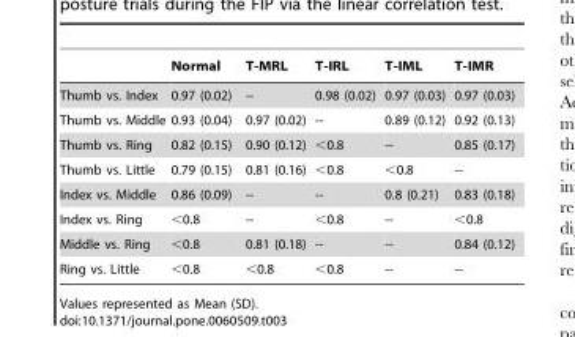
<table><thead><tr><td></td><td>Normal</td><td>T-MRL</td><td>T-IRL</td><td>T-IML</td><td>T-IMR</td></tr></thead><tbody><tr><td>Thumb vs. Index</td><td>0.97 (0.02)</td><td>--</td><td>0.98 (0.02)</td><td>0.97 (0.03)</td><td>0.97 (0.03)</td></tr><tr><td>Thumb vs. Middle</td><td>0.93 (0.04)</td><td>0.97 (0.02)</td><td>--</td><td>0.89 (0.12)</td><td>0.92 (0.13)</td></tr><tr><td>Thumb vs. Ring</td><td>0.82 (0.15)</td><td>0.90 (0.12)</td><td>&lt;0.8</td><td>--</td><td>0.85 (0.17)</td></tr><tr><td>Thumb vs. Little</td><td>0.79 (0.15)</td><td>0.81 (0.16)</td><td>&lt;0.8</td><td>&lt;0.8</td><td>--</td></tr><tr><td>Index vs. Middle</td><td>0.86 (0.09)</td><td>--</td><td>--</td><td>0.8 (0.21)</td><td>0.83 (0.18)</td></tr><tr><td>Index vs. Ring</td><td>&lt;0.8</td><td>--</td><td>&lt;0.8</td><td>--</td><td>&lt;0.8</td></tr><tr><td>Middle vs. Ring</td><td>&lt;0.8</td><td>0.81 (0.18)</td><td>--</td><td>--</td><td>0.84 (0.12)</td></tr><tr><td>Ring vs. Little</td><td>&lt;0.8</td><td>&lt;0.8</td><td>&lt;0.8</td><td>--</td><td>--</td></tr></tbody></table>